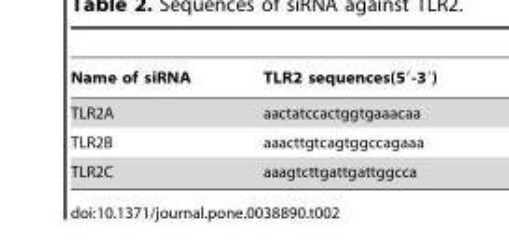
<table><thead><tr><td>Name of siRNA</td><td>TLR2 sequences(5′-3′)</td></tr></thead><tbody><tr><td>TLR2A</td><td>aactatccactggtgaaacaa</td></tr><tr><td>TLR2B</td><td>aaacttgtcagtggccagaaa</td></tr><tr><td>TLR2C</td><td>aaagtcttgattgattggcca</td></tr></tbody></table>